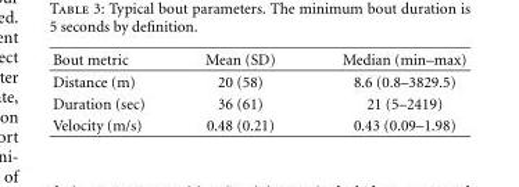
<table><thead><tr><td>Bout metric</td><td>Mean (SD)</td><td>Median (min–max)</td></tr></thead><tbody><tr><td>Distance (m)</td><td>20 (58)</td><td>8.6 (0.8–3829.5)</td></tr><tr><td>Duration (sec)</td><td>36 (61)</td><td>21 (5–2419)</td></tr><tr><td>Velocity (m/s)</td><td>0.48 (0.21)</td><td>0.43 (0.09–1.98)</td></tr></tbody></table>